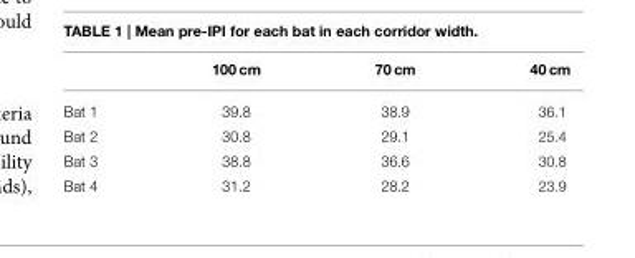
<table><thead><tr><td></td><td>100 cm</td><td>70 cm</td><td>40 cm</td></tr></thead><tbody><tr><td>Bat 1</td><td>39.8</td><td>38.9</td><td>36.1</td></tr><tr><td>Bat 2</td><td>30.8</td><td>29.1</td><td>25.4</td></tr><tr><td>Bat 3</td><td>38.8</td><td>36.6</td><td>30.8</td></tr><tr><td>Bat 4</td><td>31.2</td><td>28.2</td><td>23.9</td></tr></tbody></table>